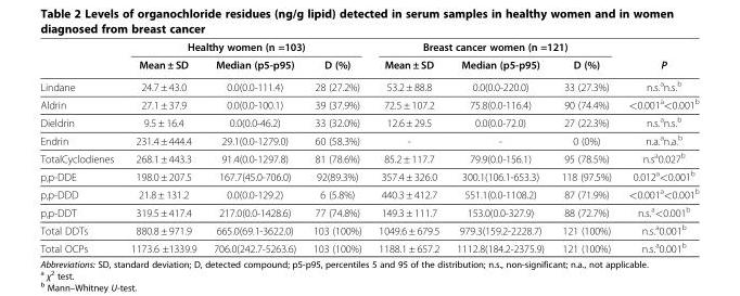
<table><thead><tr><td rowspan="2"></td><td colspan="3">Healthy women (n =103)</td><td colspan="3">Breast cancer women (n =121)</td><td rowspan="2">P</td></tr><tr><td>Mean ± SD</td><td>Median (p5-p95)</td><td>D (%)</td><td>Mean ± SD</td><td>Median (p5-p95)</td><td>D (%)</td></tr></thead><tbody><tr><td>Lindane</td><td>24.7 ± 43.0</td><td>0.0(0.0-111.4)</td><td>28 (27.2%)</td><td>53.2 ± 88.8</td><td>0.0(0.0-220.0)</td><td>33 (27.3%)</td><td>n.s.<sup>a</sup>n.s.<sup>b</sup></td></tr><tr><td>Aldrin</td><td>27.1 ± 37.9</td><td>0.0(0.0-100.1)</td><td>39 (37.9%)</td><td>72.5 ± 107.2</td><td>75.8(0.0-116.4)</td><td>90 (74.4%)</td><td>&lt;0.001<sup>a</sup>&lt;0.001<sup>b</sup></td></tr><tr><td>Dieldrin</td><td>9.5 ± 16.4</td><td>0.0(0.0-46.2)</td><td>33 (32.0%)</td><td>12.6 ± 29.5</td><td>0.0(0.0-72.0)</td><td>27 (22.3%)</td><td>n.s.<sup>a</sup>n.s.<sup>b</sup></td></tr><tr><td>Endrin</td><td>231.4 ± 444.4</td><td>29.1(0.0-1279.0)</td><td>60 (58.3%)</td><td>-</td><td>-</td><td>0 (0%)</td><td>n.a.<sup>a</sup>n.a.<sup>b</sup></td></tr><tr><td>TotalCyclodienes</td><td>268.1 ± 443.3</td><td>91.4(0.0-1297.8)</td><td>81 (78.6%)</td><td>85.2 ± 117.7</td><td>79.9(0.0-156.1)</td><td>95 (78.5%)</td><td>n.s<sup>a</sup>0.027<sup>b</sup></td></tr><tr><td>p,p-DDE</td><td>198.0 ± 207.5</td><td>167.7(45.0-706.0)</td><td>92(89.3%)</td><td>357.4 ± 326.0</td><td>300.1(106.1-653.3)</td><td>118 (97.5%)</td><td>0.012<sup>a</sup>&lt;0.001<sup>b</sup></td></tr><tr><td>p,p-DDD</td><td>21.8 ± 131.2</td><td>0.0(0.0-129.2)</td><td>6 (5.8%)</td><td>440.3 ± 412.7</td><td>551.1(0.0-1108.2)</td><td>87 (71.9%)</td><td>&lt;0.001<sup>a</sup>&lt;0.001<sup>b</sup></td></tr><tr><td>p,p-DDT</td><td>319.5 ± 417.4</td><td>217.0(0.0-1428.6)</td><td>77 (74.8%)</td><td>149.3 ± 111.7</td><td>153.0(0.0-327.9)</td><td>88 (72.7%)</td><td>n.s.<sup>a</sup>&lt;0.001<sup>b</sup></td></tr><tr><td>Total DDTs</td><td>880.8 ± 971.9</td><td>665.0(69.1-3622.0)</td><td>103 (100%)</td><td>1049.6 ± 679.5</td><td>979.3(159.2-2228.7)</td><td>121 (100%)</td><td>n.s.<sup>a</sup>0.001<sup>b</sup></td></tr><tr><td>Total OCPs</td><td>1173.6 ±1339.9</td><td>706.0(242.7-5263.6)</td><td>103 (100%)</td><td>1188.1 ± 657.2</td><td>1112.8(184.2-2375.9)</td><td>121 (100%)</td><td>n.s.<sup>a</sup>0.001<sup>b</sup></td></tr></tbody></table>